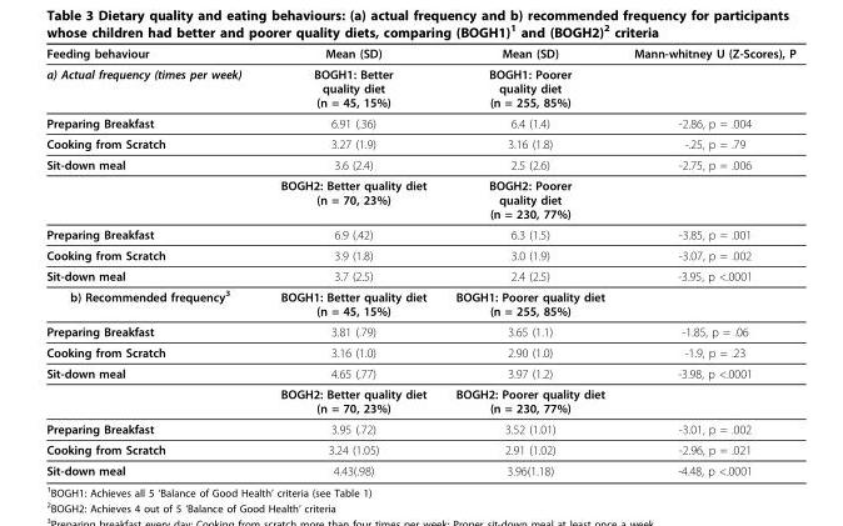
<table><thead><tr><td>Feeding behaviour</td><td>Mean (SD)</td><td>Mean (SD)</td><td>Mann-whitney U (Z-Scores), P</td></tr></thead><tbody><tr><td>a) Actual frequency (times per week)</td><td>BOGH1: Better quality diet (n = 45, 15%)</td><td>BOGH1: Poorer quality diet (n = 255, 85%)</td><td></td></tr><tr><td>Preparing Breakfast</td><td>6.91 (.36)</td><td>6.4 (1.4)</td><td>-2.86, p = .004</td></tr><tr><td>Cooking from Scratch</td><td>3.27 (1.9)</td><td>3.16 (1.8)</td><td>-.25, p = .79</td></tr><tr><td rowspan="2">Sit-down meal</td><td>3.6 (2.4)</td><td>2.5 (2.6)</td><td>-2.75, p = .006</td></tr><tr><td>BOGH2: Better quality diet (n = 70, 23%)</td><td>BOGH2: Poorer quality diet (n = 230, 77%)</td><td></td></tr><tr><td>Preparing Breakfast</td><td>6.9 (.42)</td><td>6.3 (1.5)</td><td>-3.85, p = .001</td></tr><tr><td>Cooking from Scratch</td><td>3.9 (1.8)</td><td>3.0 (1.9)</td><td>-3.07, p = .002</td></tr><tr><td>Sit-down meal</td><td>3.7 (2.5)</td><td>2.4 (2.5)</td><td>-3.95, p &lt;.0001</td></tr><tr><td>b) Recommended frequency<sup>3</sup></td><td>BOGH1: Better quality diet (n = 45, 15%)</td><td>BOGH1: Poorer quality diet (n = 255, 85%)</td><td></td></tr><tr><td>Preparing Breakfast</td><td>3.81 (.79)</td><td>3.65 (1.1)</td><td>-1.85, p = .06</td></tr><tr><td>Cooking from Scratch</td><td>3.16 (1.0)</td><td>2.90 (1.0)</td><td>-1.9, p = .23</td></tr><tr><td rowspan="2">Sit-down meal</td><td>4.65 (.77)</td><td>3.97 (1.2)</td><td>-3.98, p &lt;.0001</td></tr><tr><td>BOGH2: Better quality diet (n = 70, 23%)</td><td>BOGH2: Poorer quality diet (n = 230, 77%)</td><td></td></tr><tr><td>Preparing Breakfast</td><td>3.95 (.72)</td><td>3.52 (1.01)</td><td>-3.01, p = .002</td></tr><tr><td>Cooking from Scratch</td><td>3.24 (1.05)</td><td>2.91 (1.02)</td><td>-2.96, p = .021</td></tr><tr><td>Sit-down meal</td><td>4.43(.98)</td><td>3.96(1.18)</td><td>-4.48, p &lt;.0001</td></tr></tbody></table>